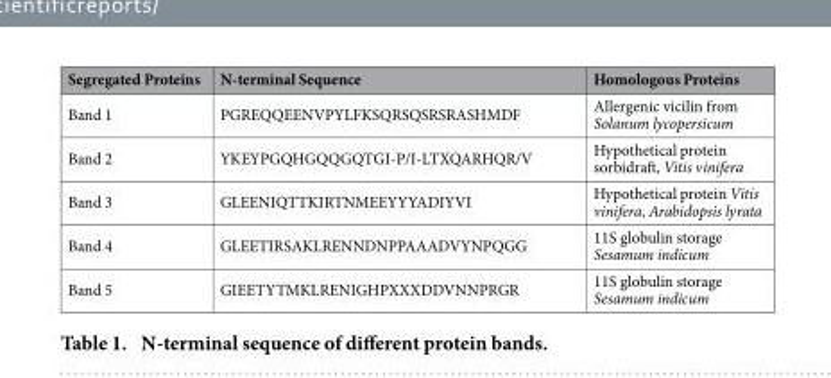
<table><thead><tr><td>Segregated Proteins</td><td>N-terminal Sequence</td><td>Homologous Proteins</td></tr></thead><tbody><tr><td>Band 1</td><td>PGREQQEENVPYLFKSQRSQSRSRASHMDF</td><td>Allergenic vicilin from Solanum lycopersicum</td></tr><tr><td>Band 2</td><td>YKEYPGQHGQQGQTGI-P/I-LTXQARHQR/V</td><td>Hypothetical protein sorbidraft, Vitis vinifera</td></tr><tr><td>Band 3</td><td>GLEENIQTTKIRTNMEEYYYADIYVI</td><td>Hypothetical protein Vitis vinifera, Arabidopsis lyrata</td></tr><tr><td>Band 4</td><td>GLEETIRSAKLRENNDNPPAAADVYNPQGG</td><td>11S globulin storage Sesamum indicum</td></tr><tr><td>Band 5</td><td>GIEETYTMKLRENIGHPXXXDDVNNPRGR</td><td>11S globulin storage Sesamum indicum</td></tr></tbody></table>